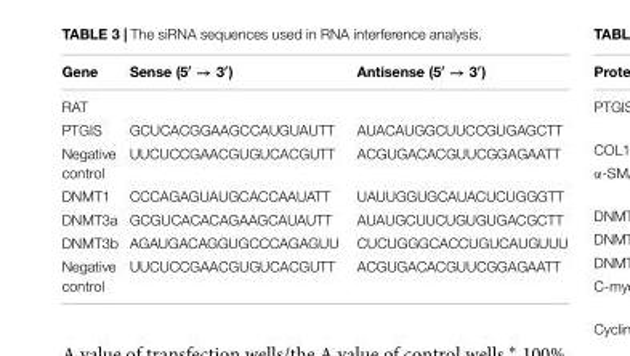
<table><thead><tr><td>Gene</td><td>Sense (5′ → 3′)</td><td>Antisense (5′ → 3′)</td></tr></thead><tbody><tr><td colspan="3">RAT</td></tr><tr><td>PTGIS</td><td>GCUCACGGAAGCCAUGUAUTT</td><td>AUACAUGGCUUCCGUGAGCTT</td></tr><tr><td>Negative control</td><td>UUCUCCGAACGUGUCACGUTT</td><td>ACGUGACACGUUCGGAGAATT</td></tr><tr><td>DNMT1</td><td>CCCAGAGUAUGCACCAAUATT</td><td>UAUUGGUGCAUACUCUGGGTT</td></tr><tr><td>DNMT3a</td><td>GCGUCACACAGAAGCAUAUTT</td><td>AUAUGCUUCUGUGUGACGCTT</td></tr><tr><td>DNMT3b</td><td>AGAUGACAGGUGCCCAGAGUU</td><td>CUCUGGGCACCUGUCAUGUUU</td></tr><tr><td>Negative control</td><td>UUCUCCGAACGUGUCACGUTT</td><td>ACGUGACACGUUCGGAGAATT</td></tr></tbody></table>